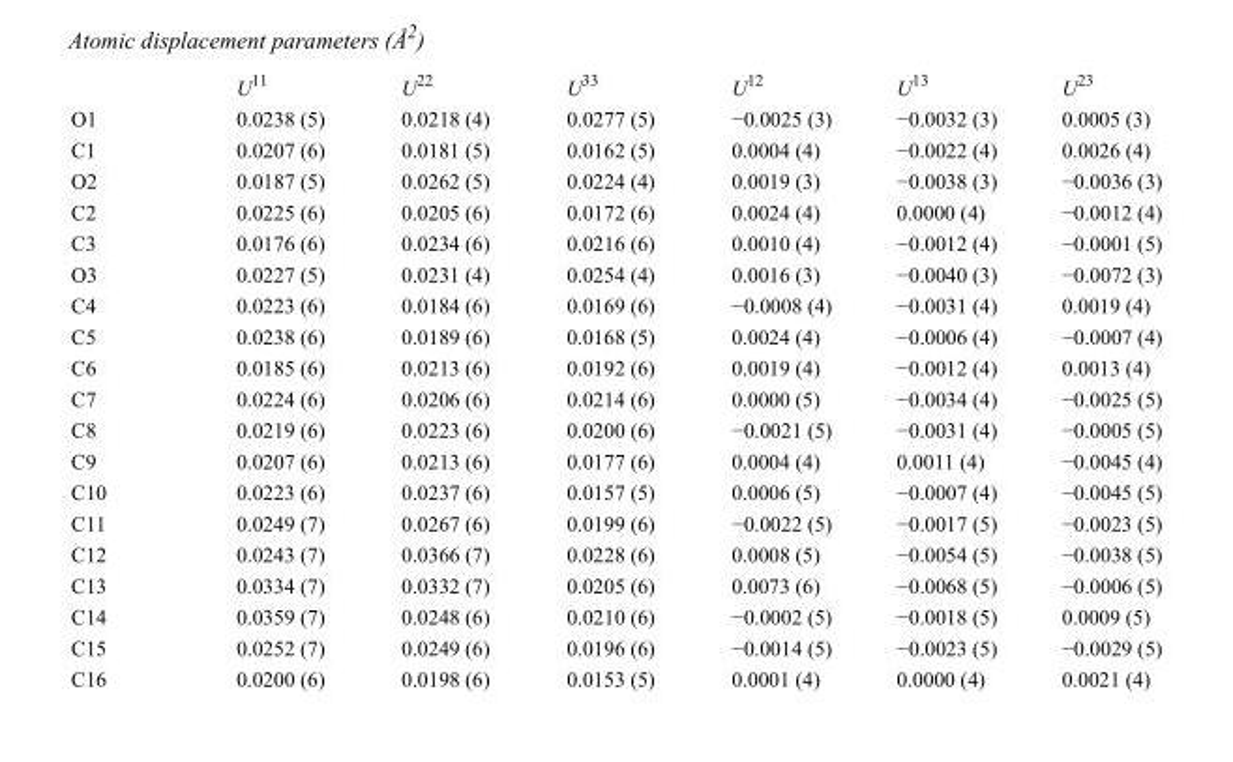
<table><thead><tr><td></td><td>U<sup>11</sup></td><td>U<sup>22</sup></td><td>U<sup>33</sup></td><td>U<sup>12</sup></td><td>U<sup>13</sup></td><td>U<sup>23</sup></td></tr></thead><tbody><tr><td>O1</td><td>0.0238 (5)</td><td>0.0218 (4)</td><td>0.0277 (5)</td><td>−0.0025 (3)</td><td>−0.0032 (3)</td><td>0.0005 (3)</td></tr><tr><td>C1</td><td>0.0207 (6)</td><td>0.0181 (5)</td><td>0.0162 (5)</td><td>0.0004 (4)</td><td>−0.0022 (4)</td><td>0.0026 (4)</td></tr><tr><td>O2</td><td>0.0187 (5)</td><td>0.0262 (5)</td><td>0.0224 (4)</td><td>0.0019 (3)</td><td>−0.0038 (3)</td><td>−0.0036 (3)</td></tr><tr><td>C2</td><td>0.0225 (6)</td><td>0.0205 (6)</td><td>0.0172 (6)</td><td>0.0024 (4)</td><td>0.0000 (4)</td><td>−0.0012 (4)</td></tr><tr><td>C3</td><td>0.0176 (6)</td><td>0.0234 (6)</td><td>0.0216 (6)</td><td>0.0010 (4)</td><td>−0.0012 (4)</td><td>−0.0001 (5)</td></tr><tr><td>O3</td><td>0.0227 (5)</td><td>0.0231 (4)</td><td>0.0254 (4)</td><td>0.0016 (3)</td><td>−0.0040 (3)</td><td>−0.0072 (3)</td></tr><tr><td>C4</td><td>0.0223 (6)</td><td>0.0184 (6)</td><td>0.0169 (6)</td><td>−0.0008 (4)</td><td>−0.0031 (4)</td><td>0.0019 (4)</td></tr><tr><td>C5</td><td>0.0238 (6)</td><td>0.0189 (6)</td><td>0.0168 (5)</td><td>0.0024 (4)</td><td>−0.0006 (4)</td><td>−0.0007 (4)</td></tr><tr><td>C6</td><td>0.0185 (6)</td><td>0.0213 (6)</td><td>0.0192 (6)</td><td>0.0019 (4)</td><td>−0.0012 (4)</td><td>0.0013 (4)</td></tr><tr><td>C7</td><td>0.0224 (6)</td><td>0.0206 (6)</td><td>0.0214 (6)</td><td>0.0000 (5)</td><td>−0.0034 (4)</td><td>−0.0025 (5)</td></tr><tr><td>C8</td><td>0.0219 (6)</td><td>0.0223 (6)</td><td>0.0200 (6)</td><td>−0.0021 (5)</td><td>−0.0031 (4)</td><td>−0.0005 (5)</td></tr><tr><td>C9</td><td>0.0207 (6)</td><td>0.0213 (6)</td><td>0.0177 (6)</td><td>0.0004 (4)</td><td>0.0011 (4)</td><td>−0.0045 (4)</td></tr><tr><td>C10</td><td>0.0223 (6)</td><td>0.0237 (6)</td><td>0.0157 (5)</td><td>0.0006 (5)</td><td>−0.0007 (4)</td><td>−0.0045 (5)</td></tr><tr><td>C11</td><td>0.0249 (7)</td><td>0.0267 (6)</td><td>0.0199 (6)</td><td>−0.0022 (5)</td><td>−0.0017 (5)</td><td>−0.0023 (5)</td></tr><tr><td>C12</td><td>0.0243 (7)</td><td>0.0366 (7)</td><td>0.0228 (6)</td><td>0.0008 (5)</td><td>−0.0054 (5)</td><td>−0.0038 (5)</td></tr><tr><td>C13</td><td>0.0334 (7)</td><td>0.0332 (7)</td><td>0.0205 (6)</td><td>0.0073 (6)</td><td>−0.0068 (5)</td><td>−0.0006 (5)</td></tr><tr><td>C14</td><td>0.0359 (7)</td><td>0.0248 (6)</td><td>0.0210 (6)</td><td>−0.0002 (5)</td><td>−0.0018 (5)</td><td>0.0009 (5)</td></tr><tr><td>C15</td><td>0.0252 (7)</td><td>0.0249 (6)</td><td>0.0196 (6)</td><td>−0.0014 (5)</td><td>−0.0023 (5)</td><td>−0.0029 (5)</td></tr><tr><td>C16</td><td>0.0200 (6)</td><td>0.0198 (6)</td><td>0.0153 (5)</td><td>0.0001 (4)</td><td>0.0000 (4)</td><td>0.0021 (4)</td></tr></tbody></table>